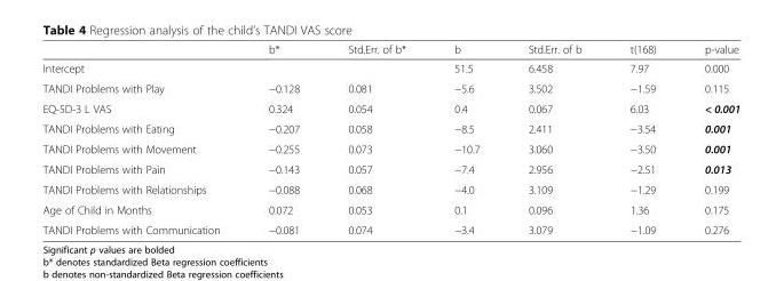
<table><thead><tr><td></td><td>b*</td><td>Std.Err. of b*</td><td>b</td><td>Std.Err. of b</td><td>t(168)</td><td>p-value</td></tr></thead><tbody><tr><td>Intercept</td><td></td><td></td><td>51.5</td><td>6.458</td><td>7.97</td><td>0.000</td></tr><tr><td>TANDI Problems with Play</td><td>−0.128</td><td>0.081</td><td>−5.6</td><td>3.502</td><td>−1.59</td><td>0.115</td></tr><tr><td>EQ-5D-3 L VAS</td><td>0.324</td><td>0.054</td><td>0.4</td><td>0.067</td><td>6.03</td><td>&lt; 0.001</td></tr><tr><td>TANDI Problems with Eating</td><td>−0.207</td><td>0.058</td><td>−8.5</td><td>2.411</td><td>−3.54</td><td>0.001</td></tr><tr><td>TANDI Problems with Movement</td><td>−0.255</td><td>0.073</td><td>−10.7</td><td>3.060</td><td>−3.50</td><td>0.001</td></tr><tr><td>TANDI Problems with Pain</td><td>−0.143</td><td>0.057</td><td>−7.4</td><td>2.956</td><td>−2.51</td><td>0.013</td></tr><tr><td>TANDI Problems with Relationships</td><td>−0.088</td><td>0.068</td><td>−4.0</td><td>3.109</td><td>−1.29</td><td>0.199</td></tr><tr><td>Age of Child in Months</td><td>0.072</td><td>0.053</td><td>0.1</td><td>0.096</td><td>1.36</td><td>0.175</td></tr><tr><td>TANDI Problems with Communication</td><td>−0.081</td><td>0.074</td><td>−3.4</td><td>3.079</td><td>−1.09</td><td>0.276</td></tr></tbody></table>